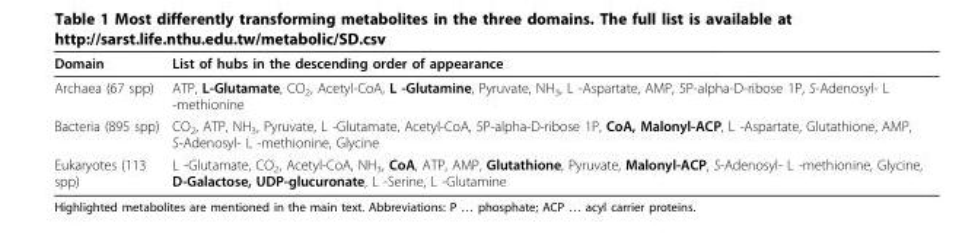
<table><thead><tr><td>Domain</td><td>List of hubs in the descending order of appearance</td></tr></thead><tbody><tr><td>Archaea (67 spp)</td><td>ATP, L-Glutamate, CO<sub>2</sub>, Acetyl-CoA, L -Glutamine, Pyruvate, NH<sub>3</sub>, L -Aspartate, AMP, 5P-alpha-D-ribose 1P, S-Adenosyl- L -methionine</td></tr><tr><td>Bacteria (895 spp)</td><td>CO<sub>2</sub>, ATP, NH<sub>3</sub>, Pyruvate, L -Glutamate, Acetyl-CoA, 5P-alpha-D-ribose 1P, CoA, Malonyl-ACP, L -Aspartate, Glutathione, AMP, S-Adenosyl- L -methionine, Glycine</td></tr><tr><td>Eukaryotes (113 spp)</td><td>L -Glutamate, CO<sub>2</sub>, Acetyl-CoA, NH<sub>3</sub>, CoA, ATP, AMP, Glutathione, Pyruvate, Malonyl-ACP, S-Adenosyl- L -methionine, Glycine, D-Galactose, UDP-glucuronate, L -Serine, L -Glutamine</td></tr></tbody></table>